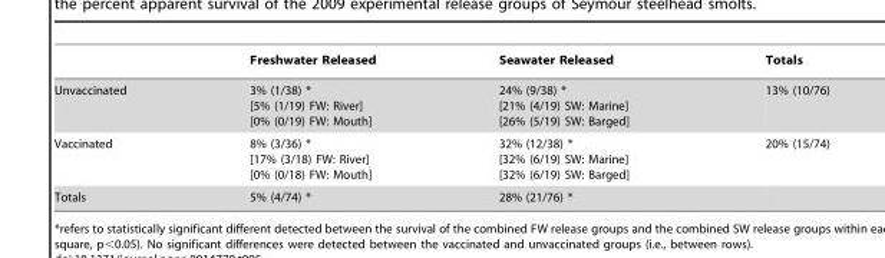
<table><thead><tr><td></td><td>Freshwater Released</td><td>Seawater Released</td><td>Totals</td></tr></thead><tbody><tr><td>Unvaccinated</td><td>3% (1/38) * [5% (1/19) FW: River] [0% (0/19) FW: Mouth]</td><td>24% (9/38) * [21% (4/19) SW: Marine] [26% (5/19) SW: Barged]</td><td>13% (10/76)</td></tr><tr><td>Vaccinated</td><td>8% (3/36) * [17% (3/18) FW: River] [0% (0/18) FW: Mouth]</td><td>32% (12/38) * [32% (6/19) SW: Marine] [32% (6/19) SW: Barged]</td><td>20% (15/74)</td></tr><tr><td>Totals</td><td>5% (4/74) *</td><td>28% (21/76) *</td><td></td></tr></tbody></table>